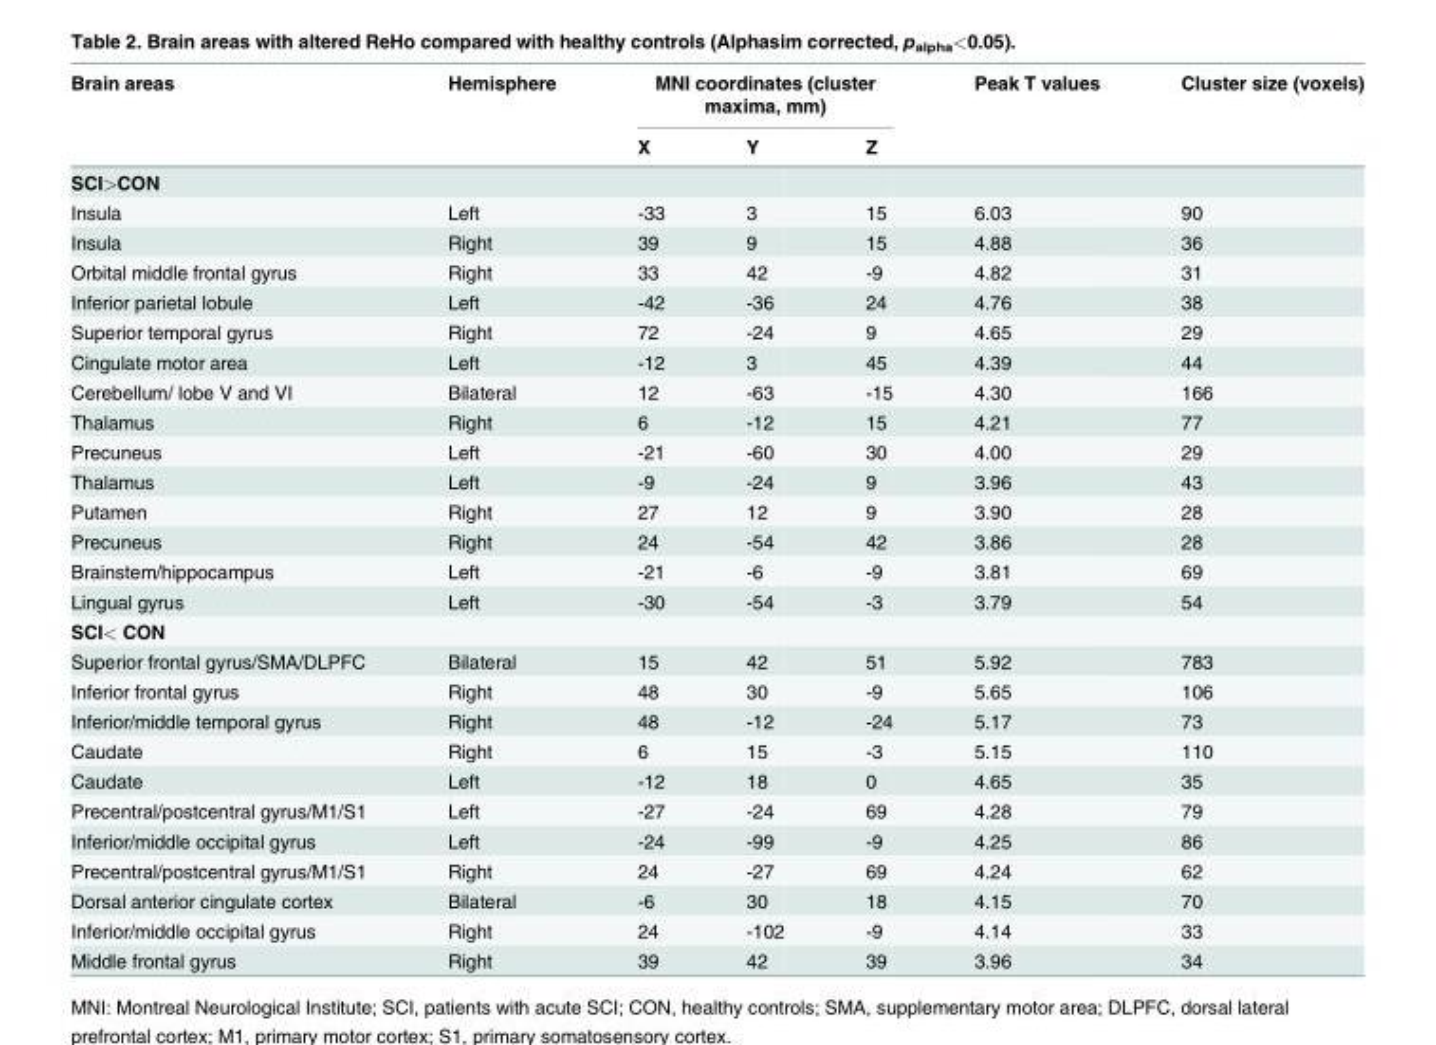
<table><thead><tr><td rowspan="2">Brain areas</td><td rowspan="2">Hemisphere</td><td colspan="3">MNI coordinates (cluster maxima, mm)</td><td rowspan="2">Peak T values</td><td rowspan="2">Cluster size (voxels)</td></tr><tr><td>X</td><td>Y</td><td>Z</td></tr></thead><tbody><tr><td colspan="7">SCI&gt;CON</td></tr><tr><td>Insula</td><td>Left</td><td>-33</td><td>3</td><td>15</td><td>6.03</td><td>90</td></tr><tr><td>Insula</td><td>Right</td><td>39</td><td>9</td><td>15</td><td>4.88</td><td>36</td></tr><tr><td>Orbital middle frontal gyrus</td><td>Right</td><td>33</td><td>42</td><td>-9</td><td>4.82</td><td>31</td></tr><tr><td>Inferior parietal lobule</td><td>Left</td><td>-42</td><td>-36</td><td>24</td><td>4.76</td><td>38</td></tr><tr><td>Superior temporal gyrus</td><td>Right</td><td>72</td><td>-24</td><td>9</td><td>4.65</td><td>29</td></tr><tr><td>Cingulate motor area</td><td>Left</td><td>-12</td><td>3</td><td>45</td><td>4.39</td><td>44</td></tr><tr><td>Cerebellum/ lobe V and VI</td><td>Bilateral</td><td>12</td><td>-63</td><td>-15</td><td>4.30</td><td>166</td></tr><tr><td>Thalamus</td><td>Right</td><td>6</td><td>-12</td><td>15</td><td>4.21</td><td>77</td></tr><tr><td>Precuneus</td><td>Left</td><td>-21</td><td>-60</td><td>30</td><td>4.00</td><td>29</td></tr><tr><td>Thalamus</td><td>Left</td><td>-9</td><td>-24</td><td>9</td><td>3.96</td><td>43</td></tr><tr><td>Putamen</td><td>Right</td><td>27</td><td>12</td><td>9</td><td>3.90</td><td>28</td></tr><tr><td>Precuneus</td><td>Right</td><td>24</td><td>-54</td><td>42</td><td>3.86</td><td>28</td></tr><tr><td>Brainstem/hippocampus</td><td>Left</td><td>-21</td><td>-6</td><td>-9</td><td>3.81</td><td>69</td></tr><tr><td>Lingual gyrus</td><td>Left</td><td>-30</td><td>-54</td><td>-3</td><td>3.79</td><td>54</td></tr><tr><td colspan="7">SCI&lt; CON</td></tr><tr><td>Superior frontal gyrus/SMA/DLPFC</td><td>Bilateral</td><td>15</td><td>42</td><td>51</td><td>5.92</td><td>783</td></tr><tr><td>Inferior frontal gyrus</td><td>Right</td><td>48</td><td>30</td><td>-9</td><td>5.65</td><td>106</td></tr><tr><td>Inferior/middle temporal gyrus</td><td>Right</td><td>48</td><td>-12</td><td>-24</td><td>5.17</td><td>73</td></tr><tr><td>Caudate</td><td>Right</td><td>6</td><td>15</td><td>-3</td><td>5.15</td><td>110</td></tr><tr><td>Caudate</td><td>Left</td><td>-12</td><td>18</td><td>0</td><td>4.65</td><td>35</td></tr><tr><td>Precentral/postcentral gyrus/M1/S1</td><td>Left</td><td>-27</td><td>-24</td><td>69</td><td>4.28</td><td>79</td></tr><tr><td>Inferior/middle occipital gyrus</td><td>Left</td><td>-24</td><td>-99</td><td>-9</td><td>4.25</td><td>86</td></tr><tr><td>Precentral/postcentral gyrus/M1/S1</td><td>Right</td><td>24</td><td>-27</td><td>69</td><td>4.24</td><td>62</td></tr><tr><td>Dorsal anterior cingulate cortex</td><td>Bilateral</td><td>-6</td><td>30</td><td>18</td><td>4.15</td><td>70</td></tr><tr><td>Inferior/middle occipital gyrus</td><td>Right</td><td>24</td><td>-102</td><td>-9</td><td>4.14</td><td>33</td></tr><tr><td>Middle frontal gyrus</td><td>Right</td><td>39</td><td>42</td><td>39</td><td>3.96</td><td>34</td></tr></tbody></table>